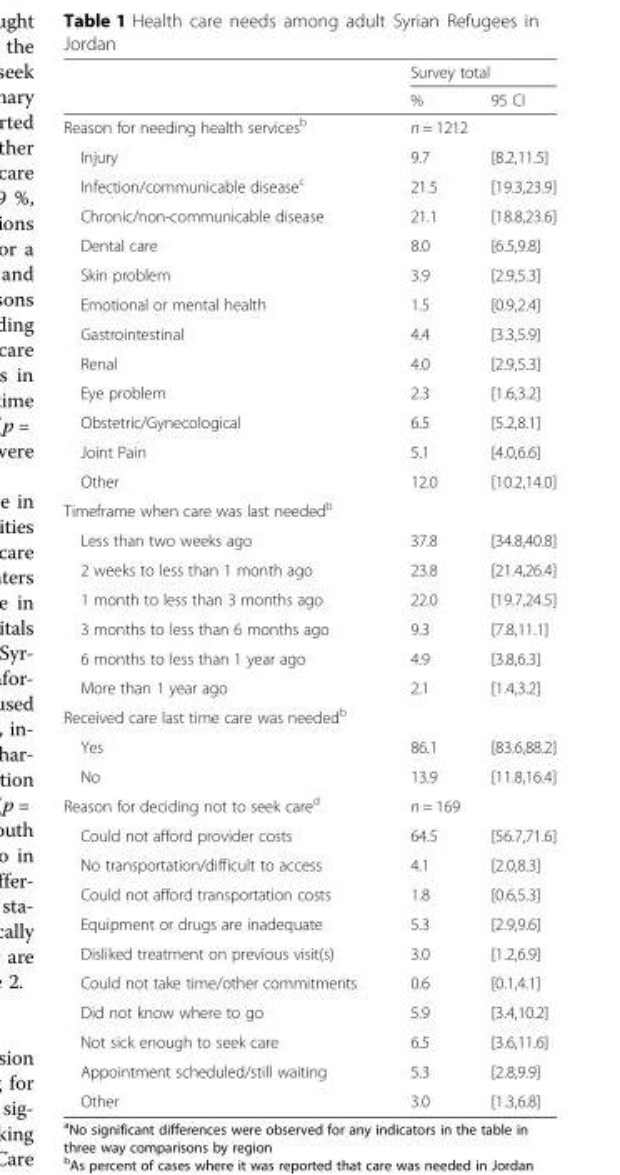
<table><thead><tr><td rowspan="2"></td><td colspan="2">Survey total</td></tr><tr><td>%</td><td>95 CI</td></tr></thead><tbody><tr><td>Reason for needing health services<sup>b</sup></td><td colspan="2">n = 1212</td></tr><tr><td>Injury</td><td>9.7</td><td>[8.2,11.5]</td></tr><tr><td>Infection/communicable disease<sup>c</sup></td><td>21.5</td><td>[19.3,23.9]</td></tr><tr><td>Chronic/non-communicable disease</td><td>21.1</td><td>[18.8,23.6]</td></tr><tr><td>Dental care</td><td>8.0</td><td>[6.5,9.8]</td></tr><tr><td>Skin problem</td><td>3.9</td><td>[2.9,5.3]</td></tr><tr><td>Emotional or mental health</td><td>1.5</td><td>[0.9,2.4]</td></tr><tr><td>Gastrointestinal</td><td>4.4</td><td>[3.3,5.9]</td></tr><tr><td>Renal</td><td>4.0</td><td>[2.9,5.3]</td></tr><tr><td>Eye problem</td><td>2.3</td><td>[1.6,3.2]</td></tr><tr><td>Obstetric/Gynecological</td><td>6.5</td><td>[5.2,8.1]</td></tr><tr><td>Joint Pain</td><td>5.1</td><td>[4.0,6.6]</td></tr><tr><td>Other</td><td>12.0</td><td>[10.2,14.0]</td></tr><tr><td colspan="3">Timeframe when care was last needed<sup>b</sup></td></tr><tr><td>Less than two weeks ago</td><td>37.8</td><td>[34.8,40.8]</td></tr><tr><td>2 weeks to less than 1 month ago</td><td>23.8</td><td>[21.4,26.4]</td></tr><tr><td>1 month to less than 3 months ago</td><td>22.0</td><td>[19.7,24.5]</td></tr><tr><td>3 months to less than 6 months ago</td><td>9.3</td><td>[7.8,11.1]</td></tr><tr><td>6 months to less than 1 year ago</td><td>4.9</td><td>[3.8,6.3]</td></tr><tr><td>More than 1 year ago</td><td>2.1</td><td>[1.4,3.2]</td></tr><tr><td colspan="3">Received care last time care was needed<sup>b</sup></td></tr><tr><td>Yes</td><td>86.1</td><td>[83.6,88.2]</td></tr><tr><td>No</td><td>13.9</td><td>[11.8,16.4]</td></tr><tr><td>Reason for deciding not to seek care<sup>d</sup></td><td colspan="2">n = 169</td></tr><tr><td>Could not afford provider costs</td><td>64.5</td><td>[56.7,71.6]</td></tr><tr><td>No transportation/difficult to access</td><td>4.1</td><td>[2.0,8.3]</td></tr><tr><td>Could not afford transportation costs</td><td>1.8</td><td>[0.6,5.3]</td></tr><tr><td>Equipment or drugs are inadequate</td><td>5.3</td><td>[2.9,9.6]</td></tr><tr><td>Disliked treatment on previous visit(s)</td><td>3.0</td><td>[1.2,6.9]</td></tr><tr><td>Could not take time/other commitments</td><td>0.6</td><td>[0.1,4.1]</td></tr><tr><td>Did not know where to go</td><td>5.9</td><td>[3.4,10.2]</td></tr><tr><td>Not sick enough to seek care</td><td>6.5</td><td>[3.6,11.6]</td></tr><tr><td>Appointment scheduled/still waiting</td><td>5.3</td><td>[2.8,9.9]</td></tr><tr><td>Other</td><td>3.0</td><td>[1.3,6.8]</td></tr></tbody></table>